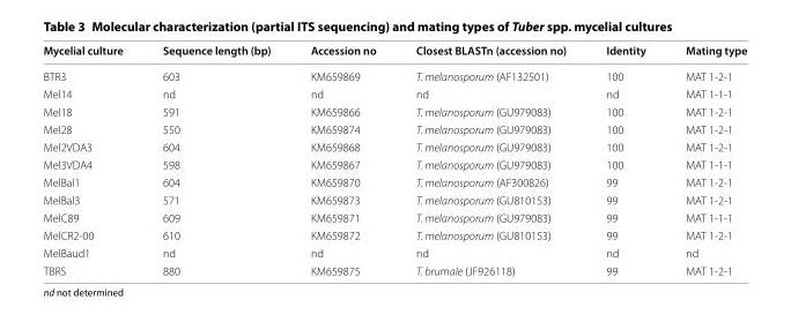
<table><thead><tr><td>Mycelial culture</td><td>Sequence length (bp)</td><td>Accession no</td><td>Closest BLASTn (accession no)</td><td>Identity</td><td>Mating type</td></tr></thead><tbody><tr><td>BTR3</td><td>603</td><td>KM659869</td><td>T. melanosporum (AF132501)</td><td>100</td><td>MAT 1-2-1</td></tr><tr><td>Mel14</td><td>nd</td><td>nd</td><td>nd</td><td>nd</td><td>MAT 1-1-1</td></tr><tr><td>Mel18</td><td>591</td><td>KM659866</td><td>T. melanosporum (GU979083)</td><td>100</td><td>MAT 1-2-1</td></tr><tr><td>Mel28</td><td>550</td><td>KM659874</td><td>T. melanosporum (GU979083)</td><td>100</td><td>MAT 1-2-1</td></tr><tr><td>Mel2VDA3</td><td>604</td><td>KM659868</td><td>T. melanosporum (GU979083)</td><td>100</td><td>MAT 1-2-1</td></tr><tr><td>Mel3VDA4</td><td>598</td><td>KM659867</td><td>T. melanosporum (GU979083)</td><td>100</td><td>MAT 1-1-1</td></tr><tr><td>MelBal1</td><td>604</td><td>KM659870</td><td>T. melanosporum (AF300826)</td><td>99</td><td>MAT 1-2-1</td></tr><tr><td>MelBal3</td><td>571</td><td>KM659873</td><td>T. melanosporum (GU810153)</td><td>99</td><td>MAT 1-2-1</td></tr><tr><td>MelC89</td><td>609</td><td>KM659871</td><td>T. melanosporum (GU979083)</td><td>99</td><td>MAT 1-1-1</td></tr><tr><td>MelCR2-00</td><td>610</td><td>KM659872</td><td>T. melanosporum (GU810153)</td><td>99</td><td>MAT 1-2-1</td></tr><tr><td>MelBaud1</td><td>nd</td><td>nd</td><td>nd</td><td>nd</td><td>nd</td></tr><tr><td>TBRS</td><td>880</td><td>KM659875</td><td>T. brumale (JF926118)</td><td>99</td><td>MAT 1-2-1</td></tr></tbody></table>